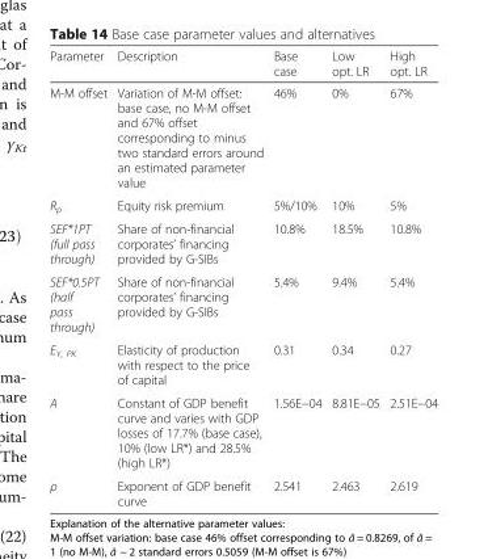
<table><thead><tr><td>Parameter</td><td>Description</td><td>Base case</td><td>Low opt. LR</td><td>High opt. LR</td></tr></thead><tbody><tr><td>M-M offset</td><td>Variation of M-M offset: base case, no M-M offset and 67% offset corresponding to minus two standard errors around an estimated parameter value</td><td>46%</td><td>0%</td><td>67%</td></tr><tr><td>R<sub>p</sub></td><td>Equity risk premium</td><td>5%/10%</td><td>10%</td><td>5%</td></tr><tr><td>SEF*1PT (full pass through)</td><td>Share of non-financial corporates’ financing provided by G-SIBs</td><td>10.8%</td><td>18.5%</td><td>10.8%</td></tr><tr><td>SEF*0.5PT (half pass through)</td><td>Share of non-financial corporates’ financing provided by G-SIBs</td><td>5.4%</td><td>9.4%</td><td>5.4%</td></tr><tr><td>E<sub>Y, PK</sub></td><td>Elasticity of production with respect to the price of capital</td><td>0.31</td><td>0.34</td><td>0.27</td></tr><tr><td>A</td><td>Constant of GDP benefit curve and varies with GDP losses of 17.7% (base case), 10% (low LR*) and 28.5% (high LR*)</td><td>1.56E−04</td><td>8.81E−05</td><td>2.51E−04</td></tr><tr><td>ρ</td><td>Exponent of GDP benefit curve</td><td>2.541</td><td>2.463</td><td>2.619</td></tr></tbody></table>